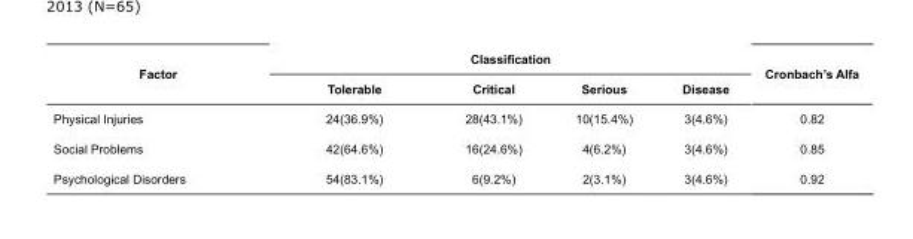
<table><tbody><tr><td rowspan="2">Factor</td><td colspan="4">Classification</td><td>Cronbach’s Alfa</td></tr><tr><td>Tolerable</td><td>Critical</td><td>Serious</td><td>Disease</td><td></td></tr><tr><td>Physical Injuries</td><td>24(36.9%)</td><td>28(43.1%)</td><td>10(15.4%)</td><td>3(4.6%)</td><td>0.82</td></tr><tr><td>Social Problems</td><td>42(64.6%)</td><td>16(24.6%)</td><td>4(6.2%)</td><td>3(4.6%)</td><td>0.85</td></tr><tr><td>Psychological Disorders</td><td>54(83.1%)</td><td>6(9.2%)</td><td>2(3.1%)</td><td>3(4.6%)</td><td>0.92</td></tr></tbody></table>